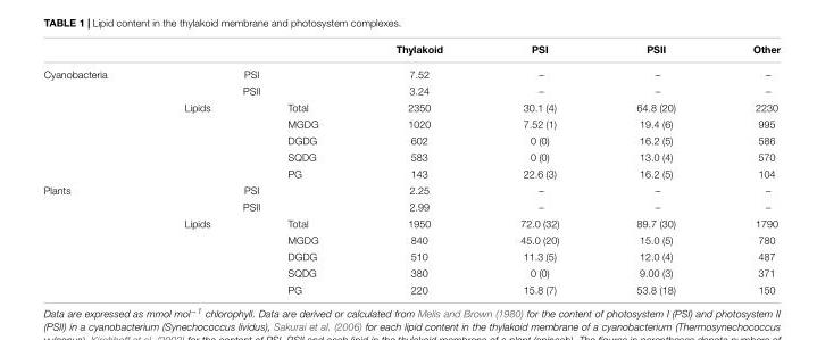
<table><thead><tr><td></td><td></td><td></td><td></td><td>Thylakoid</td><td>PSI</td><td>PSII</td><td>Other</td></tr></thead><tbody><tr><td rowspan="7">Cyanobacteria</td><td></td><td>PSI</td><td></td><td>7.52</td><td>–</td><td>–</td><td>–</td></tr><tr><td></td><td>PSII</td><td></td><td>3.24</td><td>–</td><td>–</td><td>–</td></tr><tr><td>Lipids</td><td></td><td>Total</td><td>2350</td><td>30.1 (4)</td><td>64.8 (20)</td><td>2230</td></tr><tr><td></td><td></td><td>MGDG</td><td>1020</td><td>7.52 (1)</td><td>19.4 (6)</td><td>995</td></tr><tr><td></td><td></td><td>DGDG</td><td>602</td><td>0 (0)</td><td>16.2 (5)</td><td>586</td></tr><tr><td></td><td></td><td>SQDG</td><td>583</td><td>0 (0)</td><td>13.0 (4)</td><td>570</td></tr><tr><td></td><td></td><td>PG</td><td>143</td><td>22.6 (3)</td><td>16.2 (5)</td><td>104</td></tr><tr><td rowspan="7">Plants</td><td></td><td>PSI</td><td></td><td>2.25</td><td>–</td><td>–</td><td>–</td></tr><tr><td></td><td>PSII</td><td></td><td>2.99</td><td>–</td><td>–</td><td>–</td></tr><tr><td>Lipids</td><td></td><td>Total</td><td>1950</td><td>72.0 (32)</td><td>89.7 (30)</td><td>1790</td></tr><tr><td></td><td></td><td>MGDG</td><td>840</td><td>45.0 (20)</td><td>15.0 (5)</td><td>780</td></tr><tr><td></td><td></td><td>DGDG</td><td>510</td><td>11.3 (5)</td><td>12.0 (4)</td><td>487</td></tr><tr><td></td><td></td><td>SQDG</td><td>380</td><td>0 (0)</td><td>9.00 (3)</td><td>371</td></tr><tr><td></td><td></td><td>PG</td><td>220</td><td>15.8 (7)</td><td>53.8 (18)</td><td>150</td></tr></tbody></table>